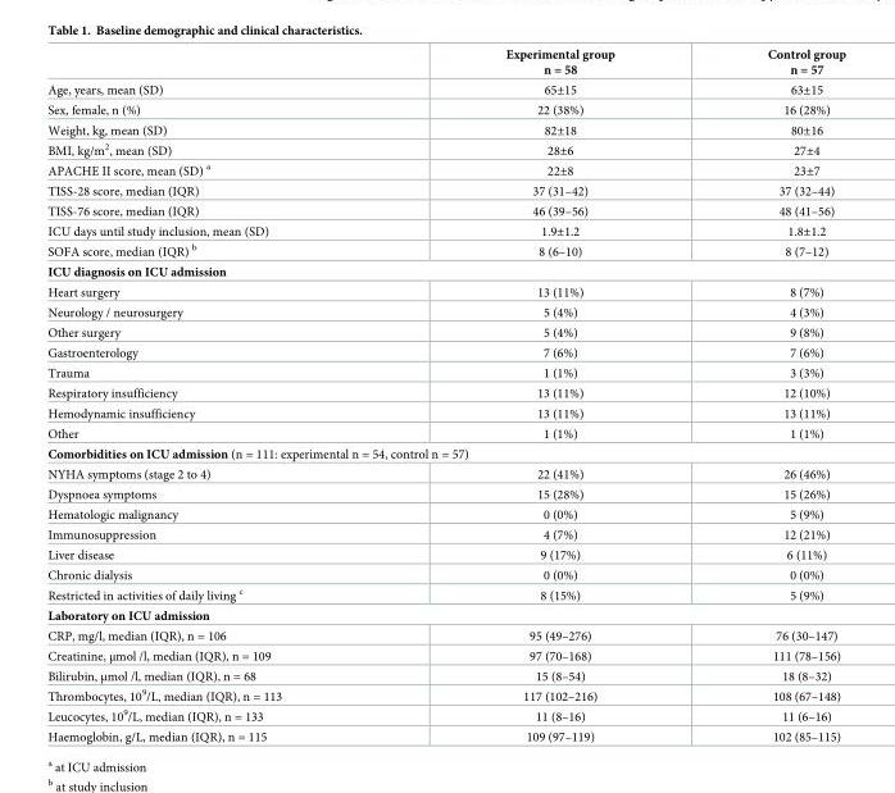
<table><thead><tr><td></td><td>Experimental group n = 58</td><td>Control group n = 57</td></tr></thead><tbody><tr><td>Age, years, mean (SD)</td><td>65±15</td><td>63±15</td></tr><tr><td>Sex, female, n (%)</td><td>22 (38%)</td><td>16 (28%)</td></tr><tr><td>Weight, kg, mean (SD)</td><td>82±18</td><td>80±16</td></tr><tr><td>BMI, kg/m<sup>2</sup>, mean (SD)</td><td>28±6</td><td>27±4</td></tr><tr><td>APACHE II score, mean (SD) <sup>a</sup></td><td>22±8</td><td>23±7</td></tr><tr><td>TISS-28 score, median (IQR)</td><td>37 (31–42)</td><td>37 (32–44)</td></tr><tr><td>TISS-76 score, median (IQR)</td><td>46 (39–56)</td><td>48 (41–56)</td></tr><tr><td>ICU days until study inclusion, mean (SD)</td><td>1.9±1.2</td><td>1.8±1.2</td></tr><tr><td>SOFA score, median (IQR) <sup>b</sup></td><td>8 (6–10)</td><td>8 (7–12)</td></tr><tr><td colspan="3">ICU diagnosis on ICU admission</td></tr><tr><td>Heart surgery</td><td>13 (11%)</td><td>8 (7%)</td></tr><tr><td>Neurology / neurosurgery</td><td>5 (4%)</td><td>4 (3%)</td></tr><tr><td>Other surgery</td><td>5 (4%)</td><td>9 (8%)</td></tr><tr><td>Gastroenterology</td><td>7 (6%)</td><td>7 (6%)</td></tr><tr><td>Trauma</td><td>1 (1%)</td><td>3 (3%)</td></tr><tr><td>Respiratory insufficiency</td><td>13 (11%)</td><td>12 (10%)</td></tr><tr><td>Hemodynamic insufficiency</td><td>13 (11%)</td><td>13 (11%)</td></tr><tr><td>Other</td><td>1 (1%)</td><td>1 (1%)</td></tr><tr><td colspan="3">Comorbidities on ICU admission (n = 111: experimental n = 54, control n = 57)</td></tr><tr><td>NYHA symptoms (stage 2 to 4)</td><td>22 (41%)</td><td>26 (46%)</td></tr><tr><td>Dyspnoea symptoms</td><td>15 (28%)</td><td>15 (26%)</td></tr><tr><td>Hematologic malignancy</td><td>0 (0%)</td><td>5 (9%)</td></tr><tr><td>Immunosuppression</td><td>4 (7%)</td><td>12 (21%)</td></tr><tr><td>Liver disease</td><td>9 (17%)</td><td>6 (11%)</td></tr><tr><td>Chronic dialysis</td><td>0 (0%)</td><td>0 (0%)</td></tr><tr><td>Restricted in activities of daily living <sup>c</sup></td><td>8 (15%)</td><td>5 (9%)</td></tr><tr><td colspan="3">Laboratory on ICU admission</td></tr><tr><td>CRP, mg/l, median (IQR), n = 106</td><td>95 (49–276)</td><td>76 (30–147)</td></tr><tr><td>Creatinine, μmol /l, median (IQR), n = 109</td><td>97 (70–168)</td><td>111 (78–156)</td></tr><tr><td>Bilirubin, μmol /l, median (IQR), n = 68</td><td>15 (8–54)</td><td>18 (8–32)</td></tr><tr><td>Thrombocytes, 10<sup>9</sup>/L, median (IQR), n = 113</td><td>117 (102–216)</td><td>108 (67–148)</td></tr><tr><td>Leucocytes, 10<sup>9</sup>/L, median (IQR), n = 133</td><td>11 (8–16)</td><td>11 (6–16)</td></tr><tr><td>Haemoglobin, g/L, median (IQR), n = 115</td><td>109 (97–119)</td><td>102 (85–115)</td></tr></tbody></table>